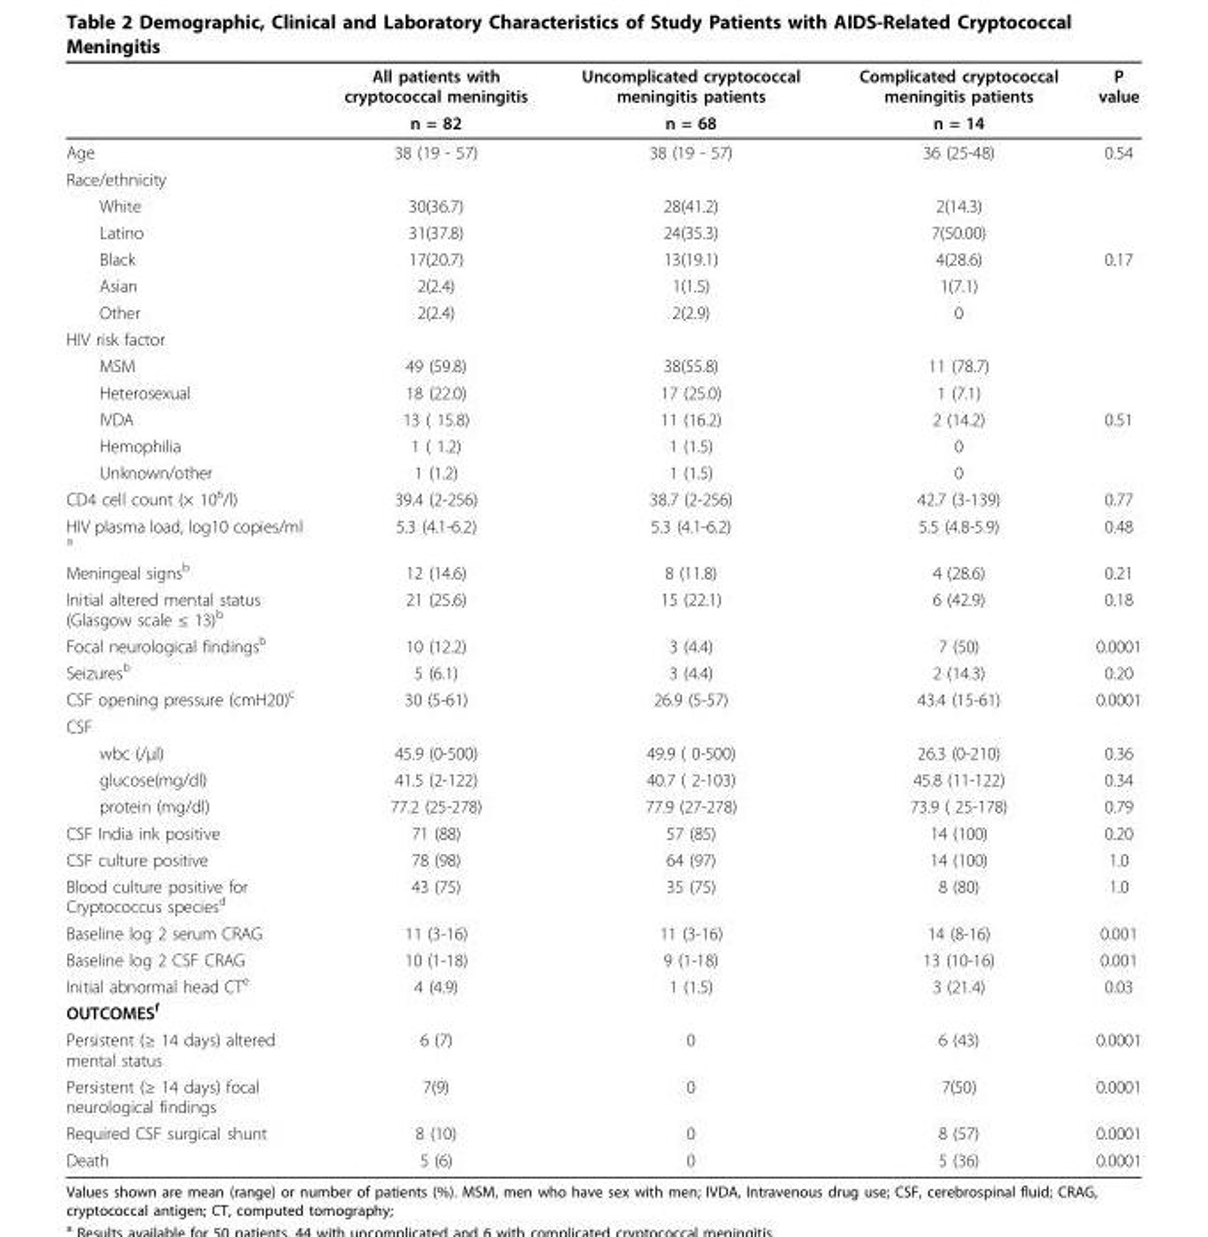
<table><thead><tr><td rowspan="2"></td><td rowspan="2">All patients with cryptococcal meningitis n = 82</td><td rowspan="2">Uncomplicated cryptococcal meningitis patients n = 68</td><td rowspan="2">Complicated cryptococcal meningitis patients n = 14</td><td rowspan="2">P value</td></tr><tr></tr></thead><tbody><tr><td>Age</td><td>38 (19 - 57)</td><td>38 (19 - 57)</td><td>36 (25-48)</td><td>0.54</td></tr><tr><td colspan="5">Race/ethnicity</td></tr><tr><td>White</td><td>30(36.7)</td><td>28(41.2)</td><td>2(14.3)</td><td></td></tr><tr><td>Latino</td><td>31(37.8)</td><td>24(35.3)</td><td>7(50.00)</td><td></td></tr><tr><td>Black</td><td>17(20.7)</td><td>13(19.1)</td><td>4(28.6)</td><td>0.17</td></tr><tr><td>Asian</td><td>2(2.4)</td><td>1(1.5)</td><td>1(7.1)</td><td></td></tr><tr><td>Other</td><td>2(2.4)</td><td>2(2.9)</td><td>0</td><td></td></tr><tr><td colspan="5">HIV risk factor</td></tr><tr><td>MSM</td><td>49 (59.8)</td><td>38(55.8)</td><td>11 (78.7)</td><td></td></tr><tr><td>Heterosexual</td><td>18 (22.0)</td><td>17 (25.0)</td><td>1 (7.1)</td><td></td></tr><tr><td>IVDA</td><td>13 ( 15.8)</td><td>11 (16.2)</td><td>2 (14.2)</td><td>0.51</td></tr><tr><td>Hemophilia</td><td>1 ( 1.2)</td><td>1 (1.5)</td><td>0</td><td></td></tr><tr><td>Unknown/other</td><td>1 (1.2)</td><td>1 (1.5)</td><td>0</td><td></td></tr><tr><td>CD4 cell count (× 10<sup>6</sup>/l)</td><td>39.4 (2-256)</td><td>38.7 (2-256)</td><td>42.7 (3-139)</td><td>0.77</td></tr><tr><td>HIV plasma load, log10 copies/ml <sup>a</sup></td><td>5.3 (4.1-6.2)</td><td>5.3 (4.1-6.2)</td><td>5.5 (4.8-5.9)</td><td>0.48</td></tr><tr><td>Meningeal signs<sup>b</sup></td><td>12 (14.6)</td><td>8 (11.8)</td><td>4 (28.6)</td><td>0.21</td></tr><tr><td>Initial altered mental status (Glasgow scale ≤ 13)b</td><td>21 (25.6)</td><td>15 (22.1)</td><td>6 (42.9)</td><td>0.18</td></tr><tr><td>Focal neurological findings<sup>b</sup></td><td>10 (12.2)</td><td>3 (4.4)</td><td>7 (50)</td><td>0.0001</td></tr><tr><td>Seizures<sup>b</sup></td><td>5 (6.1)</td><td>3 (4.4)</td><td>2 (14.3)</td><td>0.20</td></tr><tr><td>CSF opening pressure (cmH20)<sup>c</sup></td><td>30 (5-61)</td><td>26.9 (5-57)</td><td>43.4 (15-61)</td><td>0.0001</td></tr><tr><td colspan="5">CSF</td></tr><tr><td>wbc (/μl)</td><td>45.9 (0-500)</td><td>49.9 ( 0-500)</td><td>26.3 (0-210)</td><td>0.36</td></tr><tr><td>glucose(mg/dl)</td><td>41.5 (2-122)</td><td>40.7 ( 2-103)</td><td>45.8 (11-122)</td><td>0.34</td></tr><tr><td>protein (mg/dl)</td><td>77.2 (25-278)</td><td>77.9 (27-278)</td><td>73.9 ( 25-178)</td><td>0.79</td></tr><tr><td>CSF India ink positive</td><td>71 (88)</td><td>57 (85)</td><td>14 (100)</td><td>0.20</td></tr><tr><td>CSF culture positive</td><td>78 (98)</td><td>64 (97)</td><td>14 (100)</td><td>1.0</td></tr><tr><td>Blood culture positive for Cryptococcus species<sup>d</sup></td><td>43 (75)</td><td>35 (75)</td><td>8 (80)</td><td>1.0</td></tr><tr><td>Baseline log 2 serum CRAG</td><td>11 (3-16)</td><td>11 (3-16)</td><td>14 (8-16)</td><td>0.001</td></tr><tr><td>Baseline log 2 CSF CRAG</td><td>10 (1-18)</td><td>9 (1-18)</td><td>13 (10-16)</td><td>0.001</td></tr><tr><td>Initial abnormal head CT<sup>e</sup></td><td>4 (4.9)</td><td>1 (1.5)</td><td>3 (21.4)</td><td>0.03</td></tr><tr><td colspan="5">OUTCOMES<sup>f</sup></td></tr><tr><td>Persistent (≥ 14 days) altered mental status</td><td>6 (7)</td><td>0</td><td>6 (43)</td><td>0.0001</td></tr><tr><td>Persistent (≥ 14 days) focal neurological findings</td><td>7(9)</td><td>0</td><td>7(50)</td><td>0.0001</td></tr><tr><td>Required CSF surgical shunt</td><td>8 (10)</td><td>0</td><td>8 (57)</td><td>0.0001</td></tr><tr><td>Death</td><td>5 (6)</td><td>0</td><td>5 (36)</td><td>0.0001</td></tr></tbody></table>